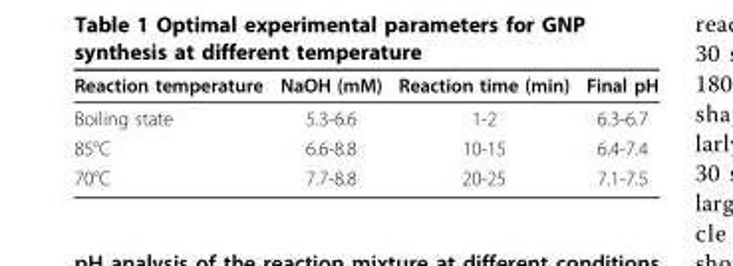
<table><thead><tr><td>Reaction temperature</td><td>NaOH (mM)</td><td>Reaction time (min)</td><td>Final pH</td></tr></thead><tbody><tr><td>Boiling state</td><td>5.3-6.6</td><td>1-2</td><td>6.3-6.7</td></tr><tr><td>85°C</td><td>6.6-8.8</td><td>10-15</td><td>6.4-7.4</td></tr><tr><td>70°C</td><td>7.7-8.8</td><td>20-25</td><td>7.1-7.5</td></tr></tbody></table>